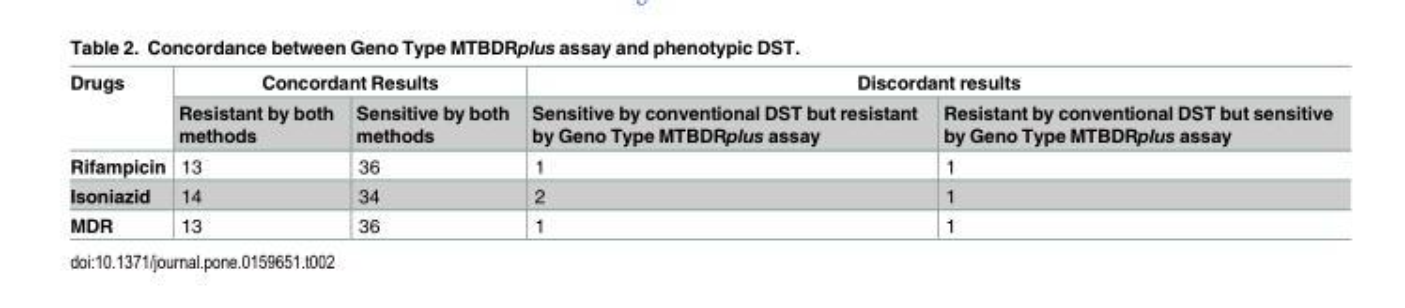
<table><thead><tr><td rowspan="2">Drugs</td><td colspan="2">Concordant Results</td><td colspan="2">Discordant results</td></tr><tr><td>Resistant by both methods</td><td>Sensitive by both methods</td><td>Sensitive by conventional DST but resistant by Geno Type MTBDRplus assay</td><td>Resistant by conventional DST but sensitive by Geno Type MTBDRplus assay</td></tr></thead><tbody><tr><td>Rifampicin</td><td>13</td><td>36</td><td>1</td><td>1</td></tr><tr><td>Isoniazid</td><td>14</td><td>34</td><td>2</td><td>1</td></tr><tr><td>MDR</td><td>13</td><td>36</td><td>1</td><td>1</td></tr></tbody></table>